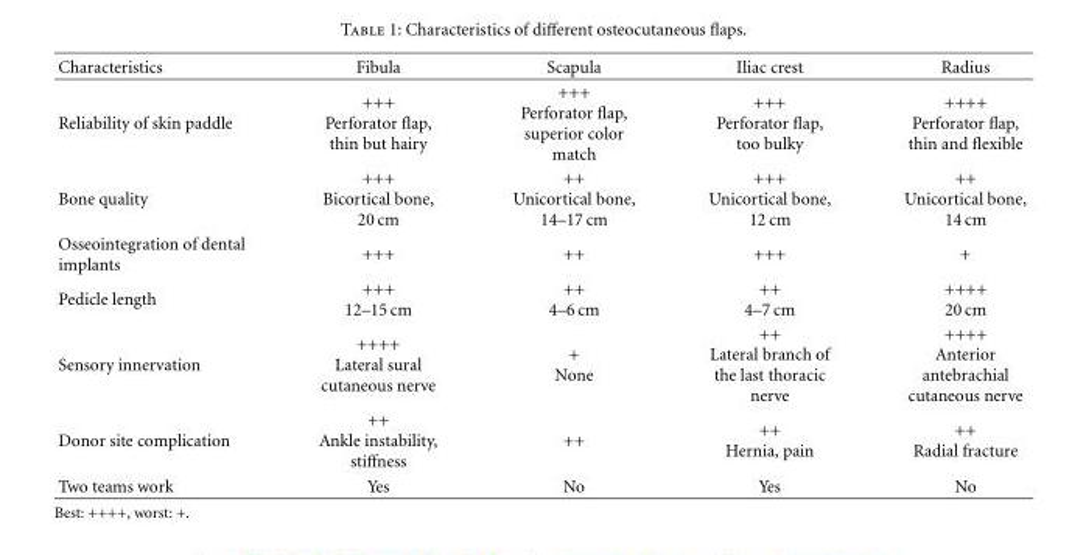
<table><thead><tr><td>Characteristics</td><td>Fibula</td><td>Scapula</td><td>Iliac crest</td><td>Radius</td></tr></thead><tbody><tr><td>Reliability of skin paddle</td><td>+++ Perforator flap, thin but hairy</td><td>+++ Perforator flap, superior color match</td><td>+++ Perforator flap, too bulky</td><td>++++ Perforator flap, thin and flexible</td></tr><tr><td>Bone quality</td><td>+++ Bicortical bone, 20 cm</td><td>++ Unicortical bone, 14–17 cm</td><td>+++ Unicortical bone, 12 cm</td><td>++ Unicortical bone, 14 cm</td></tr><tr><td>Osseointegration of dental implants</td><td>+++</td><td>++</td><td>+++</td><td>+</td></tr><tr><td>Pedicle length</td><td>+++ 12–15 cm</td><td>++ 4–6 cm</td><td>++ 4–7 cm</td><td>++++ 20 cm</td></tr><tr><td>Sensory innervation</td><td>++++ Lateral sural cutaneous nerve</td><td>+ None</td><td>++ Lateral branch of the last thoracic nerve</td><td>++++ Anterior antebrachial cutaneous nerve</td></tr><tr><td>Donor site complication</td><td>++ Ankle instability, stiffness</td><td>++</td><td>++ Hernia, pain</td><td>++ Radial fracture</td></tr><tr><td>Two teams work</td><td>Yes</td><td>No</td><td>Yes</td><td>No</td></tr></tbody></table>